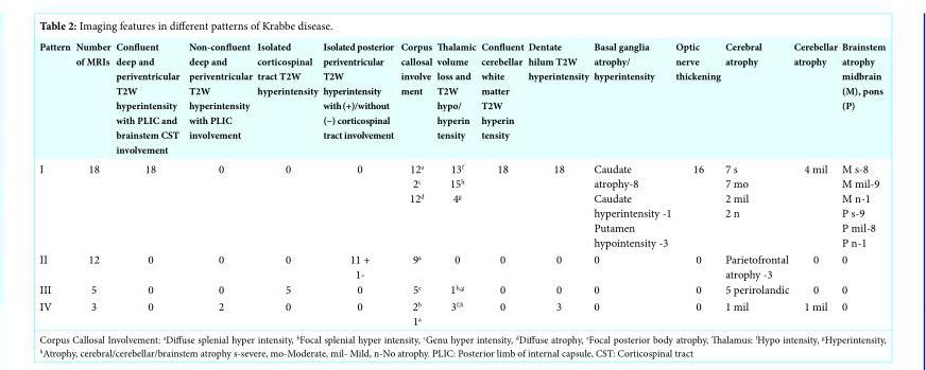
<table><thead><tr><td>Pattern</td><td>Number of MRIs</td><td>Confluent deep and periventricular T2W hyperintensity with PLIC and brainstem CST involvement</td><td>Non-confluent deep and periventricular T2W hyperintensity with PLIC involvement</td><td>Isolated corticospinal tract T2W hyperintensity</td><td>Isolated posterior periventricular T2W hyperintensity with (+)/without (−) corticospinal tract involvement</td><td>Corpus callosal involve ment</td><td>Thalamic volume loss and T2W hypo/ hyperin tensity</td><td>Confluent cerebellar white matter T2W hyperin tensity</td><td>Dentate hilum T2W hyperintensity</td><td>Basal ganglia atrophy/ hyperintensity</td><td>Optic nerve thickening</td><td>Cerebral atrophy</td><td>Cerebellar atrophy</td><td>Brainstem atrophy midbrain (M), pons (P)</td></tr></thead><tbody><tr><td>I</td><td>18</td><td>18</td><td>0</td><td>0</td><td>0</td><td>12<sup>a</sup> 2<sup>c</sup> 12<sup>d</sup></td><td>13<sup>f</sup> 15<sup>h</sup> 4<sup>g</sup></td><td>18</td><td>18</td><td>Caudate atrophy-8 Caudate hyperintensity -1 Putamen hypointensity -3</td><td>16</td><td>7 s 7 mo 2 mil 2 n</td><td>4 mil</td><td>M s-8 M mil-9 M n-1 P s-9 P mil-8 P n-1</td></tr><tr><td>II</td><td>12</td><td>0</td><td>0</td><td>0</td><td>11 + 1-</td><td>9<sup>a</sup></td><td>0</td><td>0</td><td>0</td><td>0</td><td>0</td><td>Parietofrontal atrophy -3</td><td>0</td><td>0</td></tr><tr><td>III</td><td>5</td><td>0</td><td>0</td><td>5</td><td>0</td><td>5<sup>e</sup></td><td>1<sup>h,g</sup></td><td>0</td><td>0</td><td>0</td><td>0</td><td>5 perirolandic</td><td>0</td><td>0</td></tr><tr><td>IV</td><td>3</td><td>0</td><td>2</td><td>0</td><td>0</td><td>2<sup>b</sup> 1<sup>a</sup></td><td>3<sup>f,h</sup></td><td>0</td><td>3</td><td>0</td><td>0</td><td>1 mil</td><td>1 mil</td><td>0</td></tr></tbody></table>